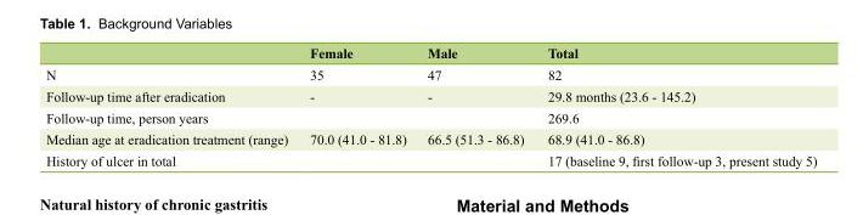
<table><thead><tr><td></td><td>Female</td><td>Male</td><td>Total</td></tr></thead><tbody><tr><td>N</td><td>35</td><td>47</td><td>82</td></tr><tr><td>Follow-up time after eradication</td><td>-</td><td>-</td><td>29.8 months (23.6 - 145.2)</td></tr><tr><td>Follow-up time, person years</td><td></td><td></td><td>269.6</td></tr><tr><td>Median age at eradication treatment (range)</td><td>70.0 (41.0 - 81.8)</td><td>66.5 (51.3 - 86.8)</td><td>68.9 (41.0 - 86.8)</td></tr><tr><td>History of ulcer in total</td><td></td><td></td><td>17 (baseline 9, first follow-up 3, present study 5)</td></tr></tbody></table>